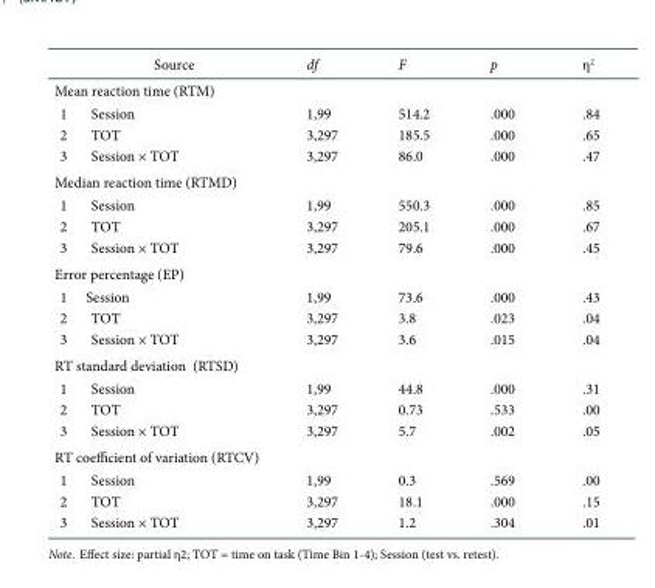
<table><thead><tr><td>Source</td><td>df</td><td>F</td><td>p</td><td>η<sup>2</sup></td></tr></thead><tbody><tr><td colspan="5">Mean reaction time (RTM)</td></tr><tr><td>1 Session</td><td>1,99</td><td>514.2</td><td>.000</td><td>.84</td></tr><tr><td>2 TOT</td><td>3,297</td><td>185.5</td><td>.000</td><td>.65</td></tr><tr><td>3 Session × TOT</td><td>3,297</td><td>86.0</td><td>.000</td><td>.47</td></tr><tr><td colspan="5">Median reaction time (RTMD)</td></tr><tr><td>1 Session</td><td>1,99</td><td>550.3</td><td>.000</td><td>.85</td></tr><tr><td>2 TOT</td><td>3,297</td><td>205.1</td><td>.000</td><td>.67</td></tr><tr><td>3 Session × TOT</td><td>3,297</td><td>79.6</td><td>.000</td><td>.45</td></tr><tr><td colspan="5">Error percentage (EP)</td></tr><tr><td>1 Session</td><td>1,99</td><td>73.6</td><td>.000</td><td>.43</td></tr><tr><td>2 TOT</td><td>3,297</td><td>3.8</td><td>.023</td><td>.04</td></tr><tr><td>3 Session × TOT</td><td>3,297</td><td>3.6</td><td>.015</td><td>.04</td></tr><tr><td colspan="5">RT standard deviation (RTSD)</td></tr><tr><td>1 Session</td><td>1,99</td><td>44.8</td><td>.000</td><td>.31</td></tr><tr><td>2 TOT</td><td>3,297</td><td>0.73</td><td>.533</td><td>.00</td></tr><tr><td>3 Session × TOT</td><td>3,297</td><td>5.7</td><td>.002</td><td>.05</td></tr><tr><td colspan="5">RT coefficient of variation (RTCV)</td></tr><tr><td>1 Session</td><td>1,99</td><td>0.3</td><td>.569</td><td>.00</td></tr><tr><td>2 TOT</td><td>3,297</td><td>18.1</td><td>.000</td><td>.15</td></tr><tr><td>3 Session × TOT</td><td>3,297</td><td>1.2</td><td>.304</td><td>.01</td></tr></tbody></table>